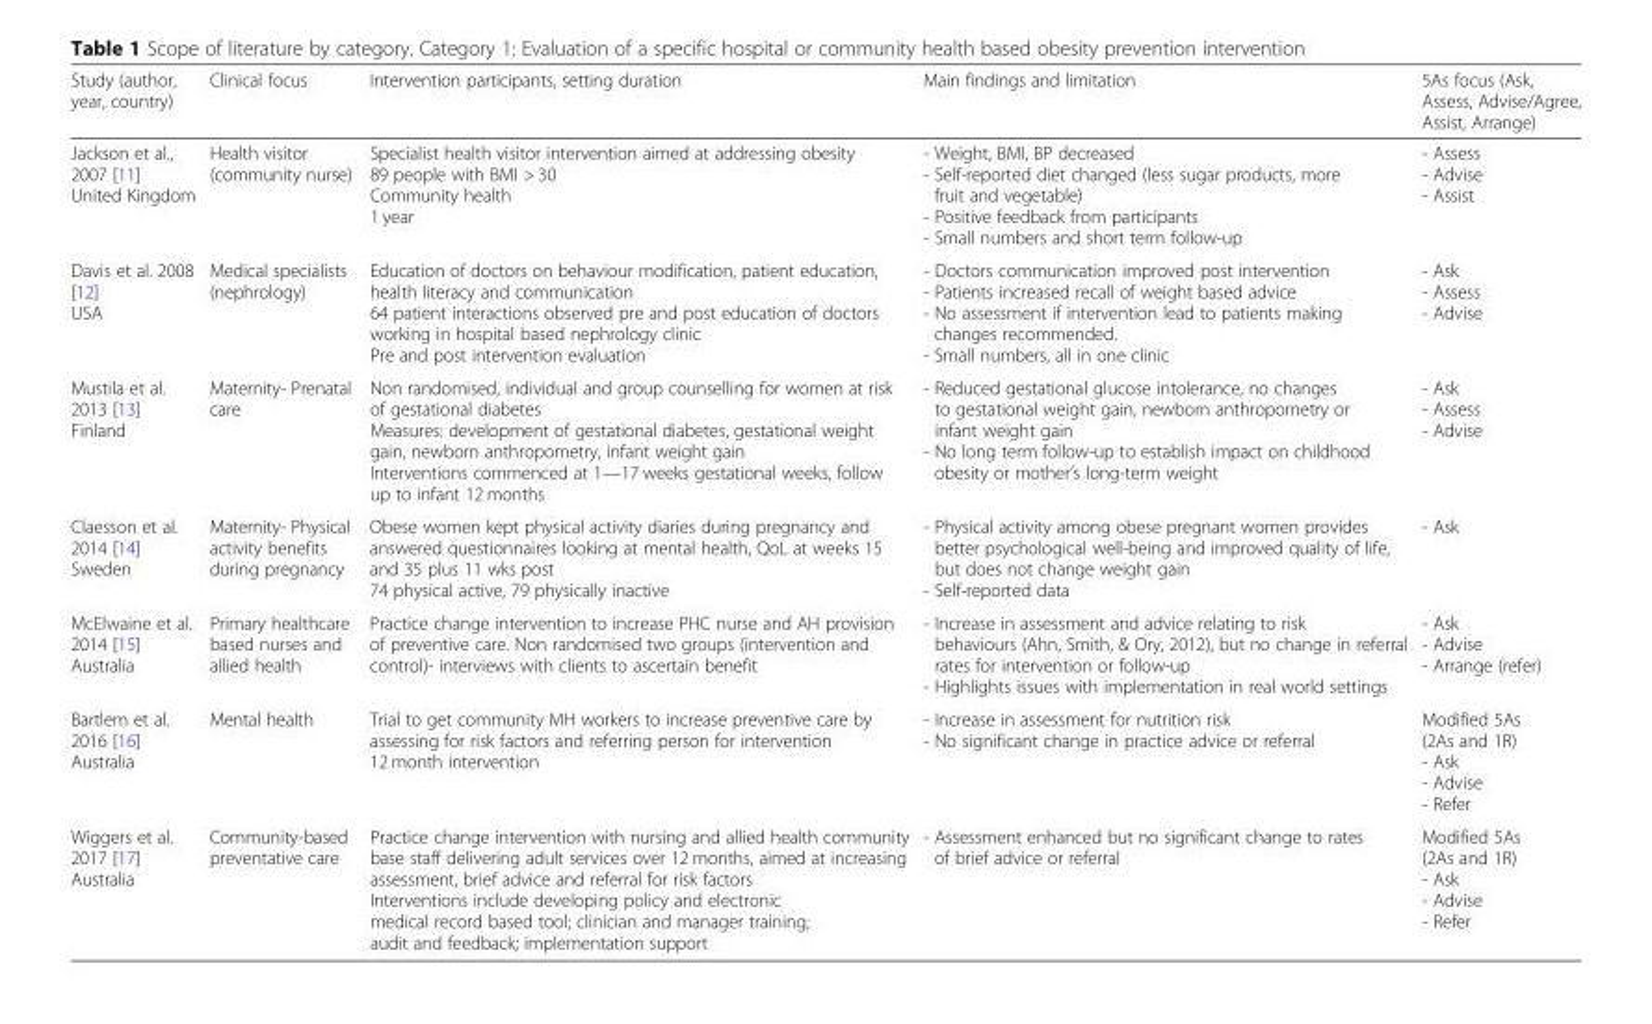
<table><thead><tr><td>Study (author, year, country)</td><td>Clinical focus</td><td>Intervention participants, setting duration</td><td>Main findings and limitation</td><td>5As focus (Ask, Assess, Advise/Agree, Assist, Arrange)</td></tr></thead><tbody><tr><td>Jackson et al., 2007 [11] United Kingdom</td><td>Health visitor (community nurse)</td><td>Specialist health visitor intervention aimed at addressing obesity 89 people with BMI &gt; 30 Community health 1 year</td><td>- Weight, BMI, BP decreased - Self-reported diet changed (less sugar products, more fruit and vegetable) - Positive feedback from participants - Small numbers and short term follow-up</td><td>- Assess - Advise - Assist</td></tr><tr><td>Davis et al. 2008 [12] USA</td><td>Medical specialists (nephrology)</td><td>Education of doctors on behaviour modification, patient education, health literacy and communication 64 patient interactions observed pre and post education of doctors working in hospital based nephrology clinic Pre and post intervention evaluation</td><td>- Doctors communication improved post intervention - Patients increased recall of weight based advice - No assessment if intervention lead to patients making changes recommended. - Small numbers, all in one clinic</td><td>- Ask - Assess - Advise</td></tr><tr><td>Mustila et al. 2013 [13] Finland</td><td>Maternity- Prenatal care</td><td>Non randomised, individual and group counselling for women at risk of gestational diabetes Measures: development of gestational diabetes, gestational weight gain, newborn anthropometry, infant weight gain Interventions commenced at 1—17 weeks gestational weeks, follow up to infant 12 months</td><td>- Reduced gestational glucose intolerance, no changes to gestational weight gain, newborn anthropometry or infant weight gain - No long term follow-up to establish impact on childhood obesity or mother’s long-term weight</td><td>- Ask - Assess - Advise</td></tr><tr><td>Claesson et al. 2014 [14] Sweden</td><td>Maternity- Physical activity benefits during pregnancy</td><td>Obese women kept physical activity diaries during pregnancy and answered questionnaires looking at mental health, QoL at weeks 15 and 35 plus 11 wks post 74 physical active, 79 physically inactive</td><td>- Physical activity among obese pregnant women provides better psychological well-being and improved quality of life, but does not change weight gain - Self-reported data</td><td>- Ask</td></tr><tr><td>McElwaine et al. 2014 [15] Australia</td><td>Primary healthcare based nurses and allied health</td><td>Practice change intervention to increase PHC nurse and AH provision of preventive care. Non randomised two groups (intervention and control)- interviews with clients to ascertain benefit</td><td>- Increase in assessment and advice relating to risk behaviours (Ahn, Smith, &amp; Ory, 2012), but no change in referral rates for intervention or follow-up - Highlights issues with implementation in real world settings</td><td>- Ask - Advise - Arrange (refer)</td></tr><tr><td>Bartlem et al. 2016 [16] Australia</td><td>Mental health</td><td>Trial to get community MH workers to increase preventive care by assessing for risk factors and referring person for intervention 12 month intervention</td><td>- Increase in assessment for nutrition risk - No significant change in practice advice or referral</td><td>Modified 5As (2As and 1R) - Ask - Advise - Refer</td></tr><tr><td>Wiggers et al. 2017 [17] Australia</td><td>Community-based preventative care</td><td>Practice change intervention with nursing and allied health community base staff delivering adult services over 12 months, aimed at increasing assessment, brief advice and referral for risk factors Interventions include developing policy and electronic medical record based tool; clinician and manager training; audit and feedback; implementation support</td><td>- Assessment enhanced but no significant change to rates of brief advice or referral</td><td>Modified 5As (2As and 1R) - Ask - Advise - Refer</td></tr></tbody></table>